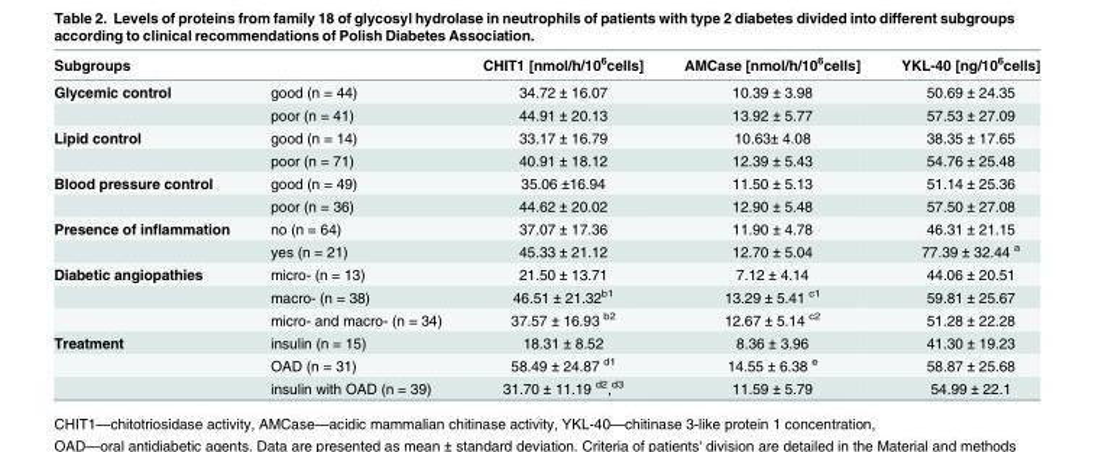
<table><thead><tr><td colspan="2">Subgroups</td><td rowspan="2">CHIT1 [nmol/h/10<sup>6</sup>cells] 34.72 ± 16.07</td><td rowspan="2">AMCase [nmol/h/10<sup>6</sup>cells] 10.39 ± 3.98</td><td rowspan="2">YKL-40 [ng/10<sup>6</sup>cells] 50.69 ± 24.35</td></tr><tr><td>Glycemic control</td><td>good (n = 44)</td></tr></thead><tbody><tr><td></td><td>poor (n = 41)</td><td>44.91 ± 20.13</td><td>13.92 ± 5.77</td><td>57.53 ± 27.09</td></tr><tr><td rowspan="2">Lipid control</td><td>good (n = 14)</td><td>33.17 ± 16.79</td><td>10.63± 4.08</td><td>38.35 ± 17.65</td></tr><tr><td>poor (n = 71)</td><td>40.91 ± 18.12</td><td>12.39 ± 5.43</td><td>54.76 ± 25.48</td></tr><tr><td rowspan="2">Blood pressure control</td><td>good (n = 49)</td><td>35.06 ±16.94</td><td>11.50 ± 5.13</td><td>51.14 ± 25.36</td></tr><tr><td>poor (n = 36)</td><td>44.62 ± 20.02</td><td>12.90 ± 5.48</td><td>57.50 ± 27.08</td></tr><tr><td rowspan="2">Presence of inflammation</td><td>no (n = 64)</td><td>37.07 ± 17.36</td><td>11.90 ± 4.78</td><td>46.31 ± 21.15</td></tr><tr><td>yes (n = 21)</td><td>45.33 ± 21.12</td><td>12.70 ± 5.04</td><td>77.39 ± 32.44 <sup>a</sup></td></tr><tr><td rowspan="3">Diabetic angiopathies</td><td>micro- (n = 13)</td><td>21.50 ± 13.71</td><td>7.12 ± 4.14</td><td>44.06 ± 20.51</td></tr><tr><td>macro- (n = 38)</td><td>46.51 ± 21.32<sup>b1</sup></td><td>13.29 ± 5.41 <sup>c1</sup></td><td>59.81 ± 25.67</td></tr><tr><td>micro- and macro- (n = 34)</td><td>37.57 ± 16.93 <sup>b2</sup></td><td>12.67 ± 5.14 <sup>c2</sup></td><td>51.28 ± 22.28</td></tr><tr><td rowspan="3">Treatment</td><td>insulin (n = 15)</td><td>18.31 ± 8.52</td><td>8.36 ± 3.96</td><td>41.30 ± 19.23</td></tr><tr><td>OAD (n = 31)</td><td>58.49 ± 24.87 <sup>d1</sup></td><td>14.55 ± 6.38 <sup>e</sup></td><td>58.87 ± 25.68</td></tr><tr><td>insulin with OAD (n = 39)</td><td>31.70 ± 11.19 <sup>d2</sup>,<sup>d3</sup></td><td>11.59 ± 5.79</td><td>54.99 ± 22.1</td></tr></tbody></table>